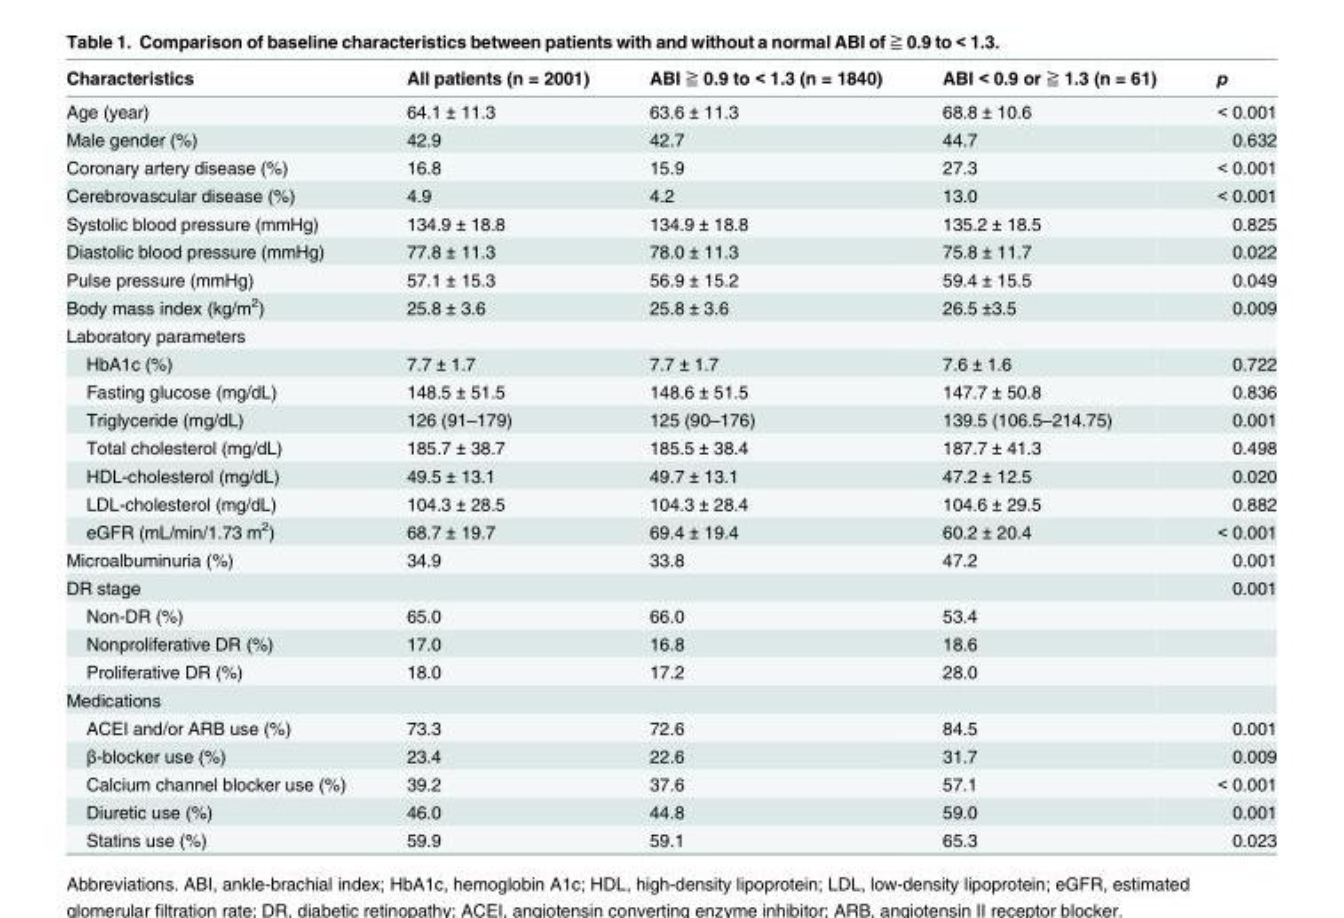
<table><thead><tr><td>Characteristics</td><td>All patients (n = 2001)</td><td>ABI ≧ 0.9 to &lt; 1.3 (n = 1840)</td><td>ABI &lt; 0.9 or ≧ 1.3 (n = 61)</td><td>p</td></tr></thead><tbody><tr><td>Age (year)</td><td>64.1 ± 11.3</td><td>63.6 ± 11.3</td><td>68.8 ± 10.6</td><td>&lt; 0.001</td></tr><tr><td>Male gender (%)</td><td>42.9</td><td>42.7</td><td>44.7</td><td>0.632</td></tr><tr><td>Coronary artery disease (%)</td><td>16.8</td><td>15.9</td><td>27.3</td><td>&lt; 0.001</td></tr><tr><td>Cerebrovascular disease (%)</td><td>4.9</td><td>4.2</td><td>13.0</td><td>&lt; 0.001</td></tr><tr><td>Systolic blood pressure (mmHg)</td><td>134.9 ± 18.8</td><td>134.9 ± 18.8</td><td>135.2 ± 18.5</td><td>0.825</td></tr><tr><td>Diastolic blood pressure (mmHg)</td><td>77.8 ± 11.3</td><td>78.0 ± 11.3</td><td>75.8 ± 11.7</td><td>0.022</td></tr><tr><td>Pulse pressure (mmHg)</td><td>57.1 ± 15.3</td><td>56.9 ± 15.2</td><td>59.4 ± 15.5</td><td>0.049</td></tr><tr><td>Body mass index (kg/m<sup>2</sup>)</td><td>25.8 ± 3.6</td><td>25.8 ± 3.6</td><td>26.5 ±3.5</td><td>0.009</td></tr><tr><td colspan="5">Laboratory parameters</td></tr><tr><td>HbA1c (%)</td><td>7.7 ± 1.7</td><td>7.7 ± 1.7</td><td>7.6 ± 1.6</td><td>0.722</td></tr><tr><td>Fasting glucose (mg/dL)</td><td>148.5 ± 51.5</td><td>148.6 ± 51.5</td><td>147.7 ± 50.8</td><td>0.836</td></tr><tr><td>Triglyceride (mg/dL)</td><td>126 (91–179)</td><td>125 (90–176)</td><td>139.5 (106.5–214.75)</td><td>0.001</td></tr><tr><td>Total cholesterol (mg/dL)</td><td>185.7 ± 38.7</td><td>185.5 ± 38.4</td><td>187.7 ± 41.3</td><td>0.498</td></tr><tr><td>HDL-cholesterol (mg/dL)</td><td>49.5 ± 13.1</td><td>49.7 ± 13.1</td><td>47.2 ± 12.5</td><td>0.020</td></tr><tr><td>LDL-cholesterol (mg/dL)</td><td>104.3 ± 28.5</td><td>104.3 ± 28.4</td><td>104.6 ± 29.5</td><td>0.882</td></tr><tr><td>eGFR (mL/min/1.73 m<sup>2</sup>)</td><td>68.7 ± 19.7</td><td>69.4 ± 19.4</td><td>60.2 ± 20.4</td><td>&lt; 0.001</td></tr><tr><td>Microalbuminuria (%)</td><td>34.9</td><td>33.8</td><td>47.2</td><td>0.001</td></tr><tr><td>DR stage</td><td></td><td></td><td></td><td>0.001</td></tr><tr><td>Non-DR (%)</td><td>65.0</td><td>66.0</td><td>53.4</td><td></td></tr><tr><td>Nonproliferative DR (%)</td><td>17.0</td><td>16.8</td><td>18.6</td><td></td></tr><tr><td>Proliferative DR (%)</td><td>18.0</td><td>17.2</td><td>28.0</td><td></td></tr><tr><td colspan="5">Medications</td></tr><tr><td>ACEI and/or ARB use (%)</td><td>73.3</td><td>72.6</td><td>84.5</td><td>0.001</td></tr><tr><td>β-blocker use (%)</td><td>23.4</td><td>22.6</td><td>31.7</td><td>0.009</td></tr><tr><td>Calcium channel blocker use (%)</td><td>39.2</td><td>37.6</td><td>57.1</td><td>&lt; 0.001</td></tr><tr><td>Diuretic use (%)</td><td>46.0</td><td>44.8</td><td>59.0</td><td>0.001</td></tr><tr><td>Statins use (%)</td><td>59.9</td><td>59.1</td><td>65.3</td><td>0.023</td></tr></tbody></table>